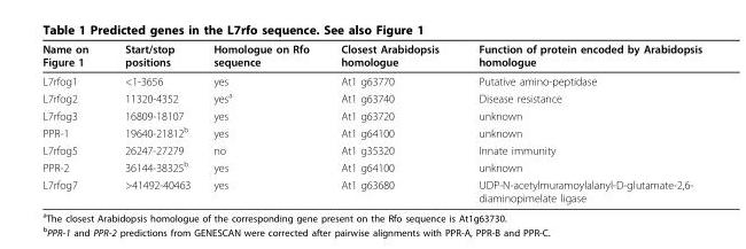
<table><thead><tr><td>Name on Figure 1</td><td>Start/stop positions</td><td>Homologue on Rfo sequence</td><td>Closest Arabidopsis homologue</td><td>Function of protein encoded by Arabidopsis homologue</td></tr></thead><tbody><tr><td>L7rfog1</td><td>&lt;1-3656</td><td>yes</td><td>At1 g63770</td><td>Putative amino-peptidase</td></tr><tr><td>L7rfog2</td><td>11320-4352</td><td>yes<sup>a</sup></td><td>At1 g63740</td><td>Disease resistance</td></tr><tr><td>L7rfog3</td><td>16809-18107</td><td>yes</td><td>At1 g63720</td><td>unknown</td></tr><tr><td>PPR-1</td><td>19640-21812<sup>b</sup></td><td>yes</td><td>At1 g64100</td><td>unknown</td></tr><tr><td>L7rfog5</td><td>26247-27279</td><td>no</td><td>At1 g35320</td><td>Innate immunity</td></tr><tr><td>PPR-2</td><td>36144-38325<sup>b</sup></td><td>yes</td><td>At1 g64100</td><td>unknown</td></tr><tr><td>L7rfog7</td><td>&gt;41492-40463</td><td>yes</td><td>At1 g63680</td><td>UDP-N-acetylmuramoylalanyl-D-glutamate-2,6- diaminopimelate ligase</td></tr></tbody></table>